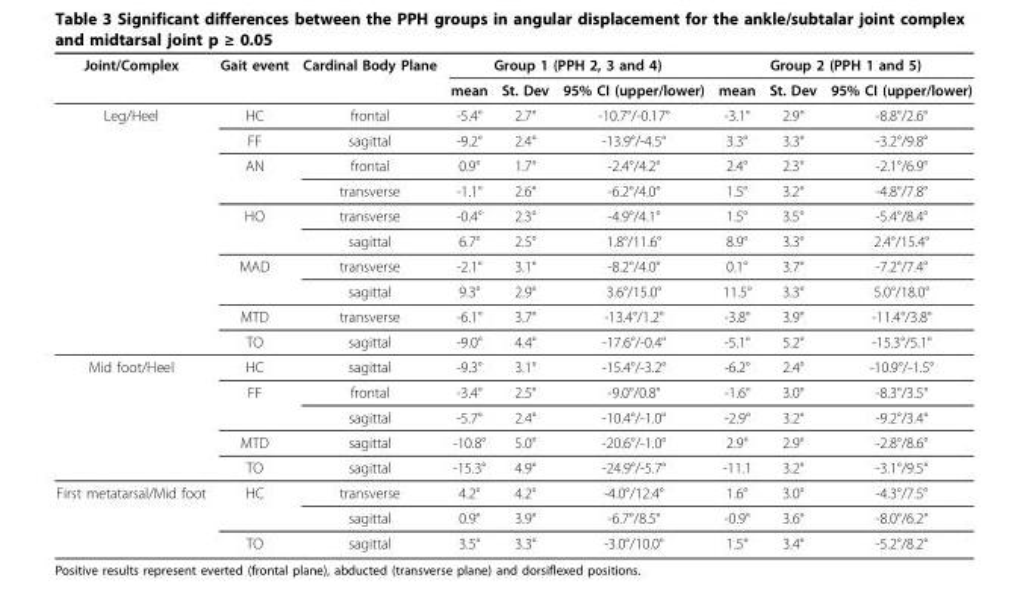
<table><thead><tr><td rowspan="2">Joint/Complex</td><td rowspan="2">Gait event</td><td rowspan="2">Cardinal Body Plane</td><td colspan="3">Group 1 (PPH 2, 3 and 4)</td><td colspan="3">Group 2 (PPH 1 and 5)</td></tr><tr><td>mean</td><td>St. Dev</td><td>95% CI (upper/lower)</td><td>mean</td><td>St. Dev</td><td>95% CI (upper/lower)</td></tr></thead><tbody><tr><td rowspan="10">Leg/Heel</td><td>HC</td><td>frontal</td><td>-5.4°</td><td>2.7°</td><td>-10.7°/-0.17°</td><td>-3.1°</td><td>2.9°</td><td>-8.8°/2.6°</td></tr><tr><td>FF</td><td>sagittal</td><td>-9.2°</td><td>2.4°</td><td>-13.9°/-4.5°</td><td>3.3°</td><td>3.3°</td><td>-3.2°/9.8°</td></tr><tr><td>AN</td><td>frontal</td><td>0.9°</td><td>1.7°</td><td>-2.4°/4.2°</td><td>2.4°</td><td>2.3°</td><td>-2.1°/6.9°</td></tr><tr><td></td><td>transverse</td><td>-1.1°</td><td>2.6°</td><td>-6.2°/4.0°</td><td>1.5°</td><td>3.2°</td><td>-4.8°/7.8°</td></tr><tr><td>HO</td><td>transverse</td><td>-0.4°</td><td>2.3°</td><td>-4.9°/4.1°</td><td>1.5°</td><td>3.5°</td><td>-5.4°/8.4°</td></tr><tr><td></td><td>sagittal</td><td>6.7°</td><td>2.5°</td><td>1.8°/11.6°</td><td>8.9°</td><td>3.3°</td><td>2.4°/15.4°</td></tr><tr><td>MAD</td><td>transverse</td><td>-2.1°</td><td>3.1°</td><td>-8.2°/4.0°</td><td>0.1°</td><td>3.7°</td><td>-7.2°/7.4°</td></tr><tr><td></td><td>sagittal</td><td>9.3°</td><td>2.9°</td><td>3.6°/15.0°</td><td>11.5°</td><td>3.3°</td><td>5.0°/18.0°</td></tr><tr><td>MTD</td><td>transverse</td><td>-6.1°</td><td>3.7°</td><td>-13.4°/1.2°</td><td>-3.8°</td><td>3.9°</td><td>-11.4°/3.8°</td></tr><tr><td>TO</td><td>sagittal</td><td>-9.0°</td><td>4.4°</td><td>-17.6°/-0.4°</td><td>-5.1°</td><td>5.2°</td><td>-15.3°/5.1°</td></tr><tr><td rowspan="5">Mid foot/Heel</td><td>HC</td><td>sagittal</td><td>-9.3°</td><td>3.1°</td><td>-15.4°/-3.2°</td><td>-6.2°</td><td>2.4°</td><td>-10.9°/-1.5°</td></tr><tr><td>FF</td><td>frontal</td><td>-3.4°</td><td>2.5°</td><td>-9.0°/0.8°</td><td>-1.6°</td><td>3.0°</td><td>-8.3°/3.5°</td></tr><tr><td></td><td>sagittal</td><td>-5.7°</td><td>2.4°</td><td>-10.4°/-1.0°</td><td>-2.9°</td><td>3.2°</td><td>-9.2°/3.4°</td></tr><tr><td>MTD</td><td>sagittal</td><td>-10.8°</td><td>5.0°</td><td>-20.6°/-1.0°</td><td>2.9°</td><td>2.9°</td><td>-2.8°/8.6°</td></tr><tr><td>TO</td><td>sagittal</td><td>-15.3°</td><td>4.9°</td><td>-24.9°/-5.7°</td><td>-11.1</td><td>3.2°</td><td>-3.1°/9.5°</td></tr><tr><td rowspan="3">First metatarsal/Mid foot</td><td>HC</td><td>transverse</td><td>4.2°</td><td>4.2°</td><td>-4.0°/12.4°</td><td>1.6°</td><td>3.0°</td><td>-4.3°/7.5°</td></tr><tr><td></td><td>sagittal</td><td>0.9°</td><td>3.9°</td><td>-6.7°/8.5°</td><td>-0.9°</td><td>3.6°</td><td>-8.0°/6.2°</td></tr><tr><td>TO</td><td>sagittal</td><td>3.5°</td><td>3.3°</td><td>-3.0°/10.0°</td><td>1.5°</td><td>3.4°</td><td>-5.2°/8.2°</td></tr></tbody></table>